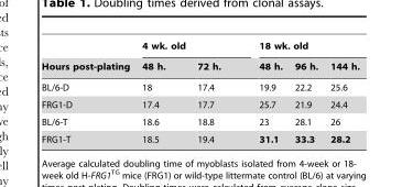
<table><thead><tr><td rowspan="2">Hours post-plating</td><td colspan="2">4 wk. old</td><td colspan="3">18 wk. old</td></tr><tr><td>48 h.</td><td>72 h.</td><td>48 h.</td><td>96 h.</td><td>144 h.</td></tr></thead><tbody><tr><td>BL/6-D</td><td>18</td><td>17.4</td><td>19.9</td><td>22.2</td><td>25.6</td></tr><tr><td>FRG1-D</td><td>17.4</td><td>17.7</td><td>25.7</td><td>21.9</td><td>24.4</td></tr><tr><td>BL/6-T</td><td>18.6</td><td>18.8</td><td>23</td><td>28.1</td><td>26</td></tr><tr><td>FRG1-T</td><td>18.5</td><td>19.4</td><td>31.1</td><td>33.3</td><td>28.2</td></tr></tbody></table>